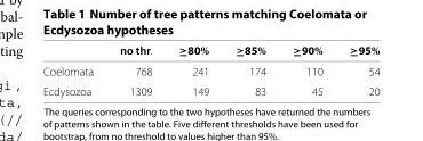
<table><thead><tr><td></td><td>no thr.</td><td>≥80%</td><td>≥85%</td><td>≥90%</td><td>≥95%</td></tr></thead><tbody><tr><td>Coelomata</td><td>768</td><td>241</td><td>174</td><td>110</td><td>54</td></tr><tr><td>Ecdysozoa</td><td>1309</td><td>149</td><td>83</td><td>45</td><td>20</td></tr></tbody></table>